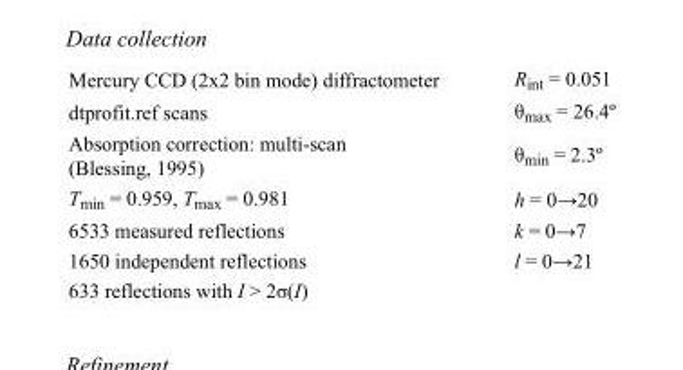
<table><tbody><tr><td>Mercury CCD (2x2 bin mode) diffractometer</td><td>R<sub>int</sub> = 0.051</td></tr><tr><td>dtprofit.ref scans</td><td>θ<sub>max</sub> = 26.4º</td></tr><tr><td>Absorption correction: multi-scan (Blessing, 1995)</td><td>θ<sub>min</sub> = 2.3º</td></tr><tr><td>T<sub>min</sub> = 0.959, T<sub>max</sub> = 0.981</td><td>h = 0→20</td></tr><tr><td>6533 measured reflections</td><td>k = 0→7</td></tr><tr><td>1650 independent reflections</td><td>l = 0→21</td></tr><tr><td>633 reflections with I &gt; 2σ(I)</td><td></td></tr></tbody></table>